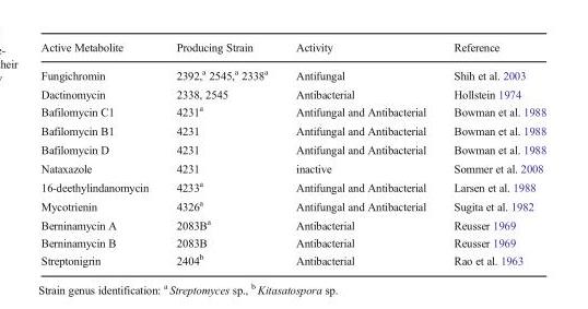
<table><thead><tr><td>Active Metabolite</td><td>Producing Strain</td><td>Activity</td><td>Reference</td></tr></thead><tbody><tr><td>Fungichromin</td><td>2392,<sup>a</sup> 2545,<sup>a</sup> 2338<sup>a</sup></td><td>Antifungal</td><td>Shih et al. 2003</td></tr><tr><td>Dactinomycin</td><td>2338, 2545</td><td>Antibacterial</td><td>Hollstein 1974</td></tr><tr><td>Bafilomycin C1</td><td>4231<sup>a</sup></td><td>Antifungal and Antibacterial</td><td>Bowman et al. 1988</td></tr><tr><td>Bafilomycin B1</td><td>4231</td><td>Antifungal and Antibacterial</td><td>Bowman et al. 1988</td></tr><tr><td>Bafilomycin D</td><td>4231</td><td>Antifungal and Antibacterial</td><td>Bowman et al. 1988</td></tr><tr><td>Nataxazole</td><td>4231</td><td>inactive</td><td>Sommer et al. 2008</td></tr><tr><td>16-deethylindanomycin</td><td>4233<sup>a</sup></td><td>Antifungal and Antibacterial</td><td>Larsen et al. 1988</td></tr><tr><td>Mycotrienin</td><td>4326<sup>a</sup></td><td>Antifungal and Antibacterial</td><td>Sugita et al. 1982</td></tr><tr><td>Berninamycin A</td><td>2083B<sup>a</sup></td><td>Antibacterial</td><td>Reusser 1969</td></tr><tr><td>Berninamycin B</td><td>2083B</td><td>Antibacterial</td><td>Reusser 1969</td></tr><tr><td>Streptonigrin</td><td>2404<sup>b</sup></td><td>Antibacterial</td><td>Rao et al. 1963</td></tr></tbody></table>